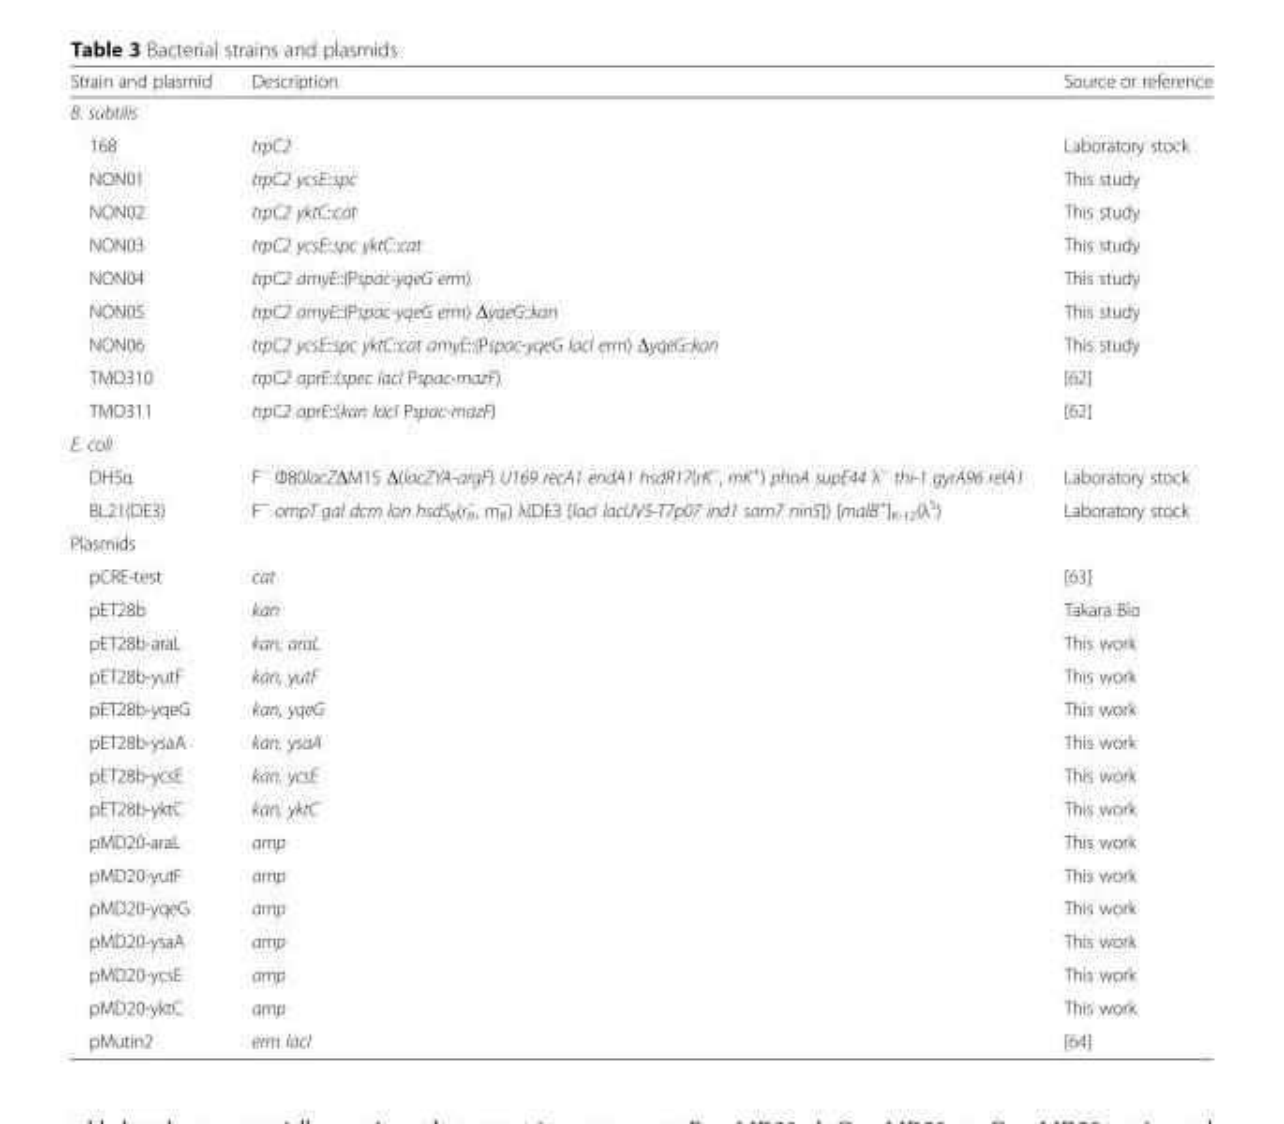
<table><thead><tr><td>Strain and plasmid</td><td>Description</td><td>Source or reference</td></tr></thead><tbody><tr><td colspan="3">B. subtilis</td></tr><tr><td>168</td><td>trpC2</td><td>Laboratory stock</td></tr><tr><td>NON01</td><td>trpC2 ycsE::spc</td><td>This study</td></tr><tr><td>NON02</td><td>trpC2 yktC::cat</td><td>This study</td></tr><tr><td>NON03</td><td>trpC2 ycsE::spc yktC::cat</td><td>This study</td></tr><tr><td>NON04</td><td>trpC2 amyE::(Pspac-yqeG erm)</td><td>This study</td></tr><tr><td>NON05</td><td>trpC2 amyE::(Pspac-yqeG erm) ΔyqeG::kan</td><td>This study</td></tr><tr><td>NON06</td><td>trpC2 ycsE::spc yktC::cat amyE::(Pspac-yqeG lacI erm) ΔyqeG::kan</td><td>This study</td></tr><tr><td>TMO310</td><td>trpC2 aprE::(spec lacI Pspac-mazF)</td><td>[62]</td></tr><tr><td>TMO311</td><td>trpC2 aprE::(kan lacI Pspac-mazF)</td><td>[62]</td></tr><tr><td colspan="3">E. coli</td></tr><tr><td>DH5α</td><td>F<sup>−</sup> Φ80lacZΔM15 Δ(lacZYA-argF) U169 recA1 endA1 hsdR17(rK<sup>−</sup>, mK<sup>+</sup>) phoA supE44 λ<sup>−</sup> thi-1 gyrA96 relA1</td><td>Laboratory stock</td></tr><tr><td>BL21(DE3)</td><td>F<sup>−</sup> ompT gal dcm lon hsdS<sub>B</sub>(r<sub>B</sub> <sup>−</sup>, m<sub>B</sub> <sup>−</sup>) λ(DE3 [lacI lacUV5-T7p07 ind1 sam7 nin5]) [malB<sup>+</sup>]<sub>K-12</sub>(λ<sup>S</sup>)</td><td>Laboratory stock</td></tr><tr><td colspan="3">Plasmids</td></tr><tr><td>pCRE-test</td><td>cat</td><td>[63]</td></tr><tr><td>pET28b</td><td>kan</td><td>Takara Bio</td></tr><tr><td>pET28b-araL</td><td>kan, araL</td><td>This work</td></tr><tr><td>pET28b-yutF</td><td>kan, yutF</td><td>This work</td></tr><tr><td>pET28b-yqeG</td><td>kan, yqeG</td><td>This work</td></tr><tr><td>pET28b-ysaA</td><td>kan, ysaA</td><td>This work</td></tr><tr><td>pET28b-ycsE</td><td>kan, ycsE</td><td>This work</td></tr><tr><td>pET28b-yktC</td><td>kan, yktC</td><td>This work</td></tr><tr><td>pMD20-araL</td><td>amp</td><td>This work</td></tr><tr><td>pMD20-yutF</td><td>amp</td><td>This work</td></tr><tr><td>pMD20-yqeG</td><td>amp</td><td>This work</td></tr><tr><td>pMD20-ysaA</td><td>amp</td><td>This work</td></tr><tr><td>pMD20-ycsE</td><td>amp</td><td>This work</td></tr><tr><td>pMD20-yktC</td><td>amp</td><td>This work</td></tr><tr><td>pMutin2</td><td>erm lacI</td><td>[64]</td></tr></tbody></table>